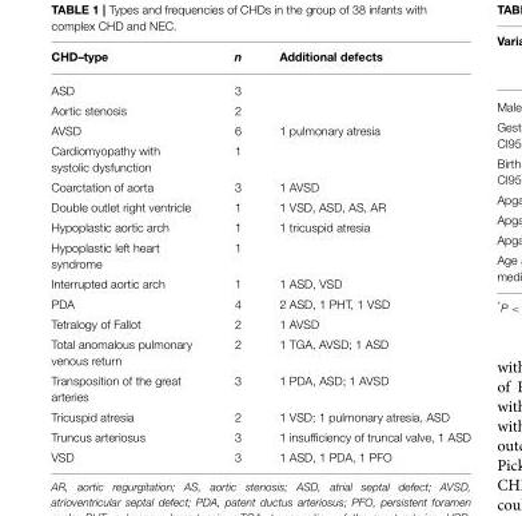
<table><thead><tr><td>CHD–type</td><td>n</td><td>Additional defects</td></tr></thead><tbody><tr><td>ASD</td><td>3</td><td></td></tr><tr><td>Aortic stenosis</td><td>2</td><td></td></tr><tr><td>AVSD</td><td>6</td><td>1 pulmonary atresia</td></tr><tr><td>Cardiomyopathy with systolic dysfunction</td><td>1</td><td></td></tr><tr><td>Coarctation of aorta</td><td>3</td><td>1 AVSD</td></tr><tr><td>Double outlet right ventricle</td><td>1</td><td>1 VSD, ASD, AS, AR</td></tr><tr><td>Hypoplastic aortic arch</td><td>1</td><td>1 tricuspid atresia</td></tr><tr><td>Hypoplastic left heart syndrome</td><td>1</td><td></td></tr><tr><td>Interrupted aortic arch</td><td>1</td><td>1 ASD, VSD</td></tr><tr><td>PDA</td><td>4</td><td>2 ASD, 1 PHT, 1 VSD</td></tr><tr><td>Tetralogy of Fallot</td><td>2</td><td>1 AVSD</td></tr><tr><td>Total anomalous pulmonary venous return</td><td>2</td><td>1 TGA, AVSD; 1 ASD</td></tr><tr><td>Transposition of the great arteries</td><td>3</td><td>1 PDA, ASD; 1 AVSD</td></tr><tr><td>Tricuspid atresia</td><td>2</td><td>1 VSD; 1 pulmonary atresia, ASD</td></tr><tr><td>Truncus arteriosus</td><td>3</td><td>1 insufficiency of truncal valve, 1 ASD</td></tr><tr><td>VSD</td><td>3</td><td>1 ASD, 1 PDA, 1 PFO</td></tr></tbody></table>